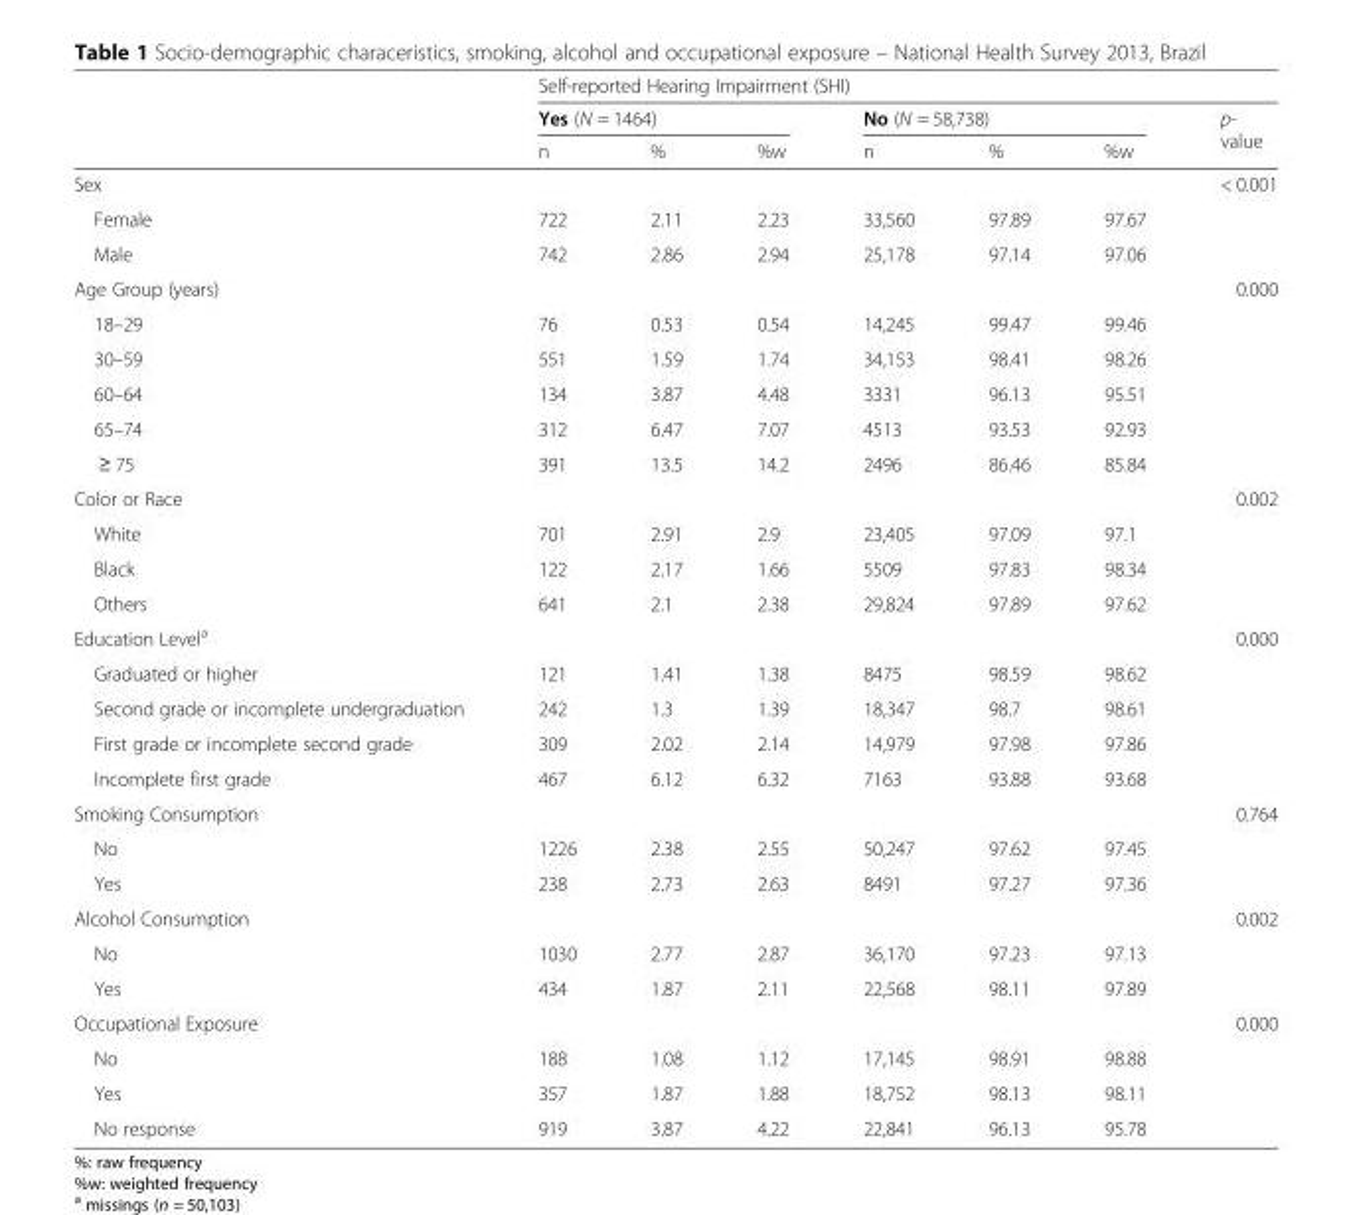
<table><thead><tr><td rowspan="3"></td><td colspan="7">Self-reported Hearing Impairment (SHI)</td></tr><tr><td colspan="3">Yes (N = 1464)</td><td colspan="3">No (N = 58,738)</td><td rowspan="2">p- value</td></tr><tr><td>n</td><td>%</td><td>%w</td><td>n</td><td>%</td><td>%w</td></tr></thead><tbody><tr><td colspan="7">Sex</td><td>&lt; 0.001</td></tr><tr><td>Female</td><td>722</td><td>2.11</td><td>2.23</td><td>33,560</td><td>97.89</td><td>97.67</td><td></td></tr><tr><td>Male</td><td>742</td><td>2.86</td><td>2.94</td><td>25,178</td><td>97.14</td><td>97.06</td><td></td></tr><tr><td colspan="7">Age Group (years)</td><td>0.000</td></tr><tr><td>18–29</td><td>76</td><td>0.53</td><td>0.54</td><td>14,245</td><td>99.47</td><td>99.46</td><td></td></tr><tr><td>30–59</td><td>551</td><td>1.59</td><td>1.74</td><td>34,153</td><td>98.41</td><td>98.26</td><td></td></tr><tr><td>60–64</td><td>134</td><td>3.87</td><td>4.48</td><td>3331</td><td>96.13</td><td>95.51</td><td></td></tr><tr><td>65–74</td><td>312</td><td>6.47</td><td>7.07</td><td>4513</td><td>93.53</td><td>92.93</td><td></td></tr><tr><td>≥ 75</td><td>391</td><td>13.5</td><td>14.2</td><td>2496</td><td>86.46</td><td>85.84</td><td></td></tr><tr><td colspan="7">Color or Race</td><td>0.002</td></tr><tr><td>White</td><td>701</td><td>2.91</td><td>2.9</td><td>23,405</td><td>97.09</td><td>97.1</td><td></td></tr><tr><td>Black</td><td>122</td><td>2.17</td><td>1.66</td><td>5509</td><td>97.83</td><td>98.34</td><td></td></tr><tr><td>Others</td><td>641</td><td>2.1</td><td>2.38</td><td>29,824</td><td>97.89</td><td>97.62</td><td></td></tr><tr><td colspan="7">Education Level<sup>a</sup></td><td>0.000</td></tr><tr><td>Graduated or higher</td><td>121</td><td>1.41</td><td>1.38</td><td>8475</td><td>98.59</td><td>98.62</td><td></td></tr><tr><td>Second grade or incomplete undergraduation</td><td>242</td><td>1.3</td><td>1.39</td><td>18,347</td><td>98.7</td><td>98.61</td><td></td></tr><tr><td>First grade or incomplete second grade</td><td>309</td><td>2.02</td><td>2.14</td><td>14,979</td><td>97.98</td><td>97.86</td><td></td></tr><tr><td>Incomplete first grade</td><td>467</td><td>6.12</td><td>6.32</td><td>7163</td><td>93.88</td><td>93.68</td><td></td></tr><tr><td colspan="7">Smoking Consumption</td><td>0.764</td></tr><tr><td>No</td><td>1226</td><td>2.38</td><td>2.55</td><td>50,247</td><td>97.62</td><td>97.45</td><td></td></tr><tr><td>Yes</td><td>238</td><td>2.73</td><td>2.63</td><td>8491</td><td>97.27</td><td>97.36</td><td></td></tr><tr><td colspan="7">Alcohol Consumption</td><td>0.002</td></tr><tr><td>No</td><td>1030</td><td>2.77</td><td>2.87</td><td>36,170</td><td>97.23</td><td>97.13</td><td></td></tr><tr><td>Yes</td><td>434</td><td>1.87</td><td>2.11</td><td>22,568</td><td>98.11</td><td>97.89</td><td></td></tr><tr><td colspan="7">Occupational Exposure</td><td>0.000</td></tr><tr><td>No</td><td>188</td><td>1.08</td><td>1.12</td><td>17,145</td><td>98.91</td><td>98.88</td><td></td></tr><tr><td>Yes</td><td>357</td><td>1.87</td><td>1.88</td><td>18,752</td><td>98.13</td><td>98.11</td><td></td></tr><tr><td>No response</td><td>919</td><td>3.87</td><td>4.22</td><td>22,841</td><td>96.13</td><td>95.78</td><td></td></tr></tbody></table>